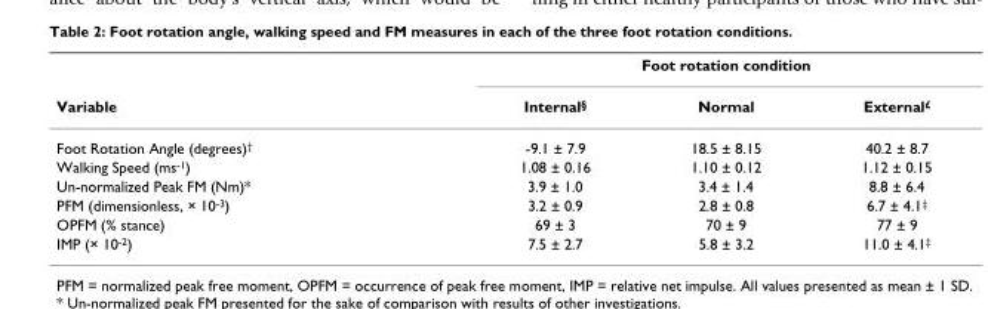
<table><thead><tr><td rowspan="2">Variable</td><td colspan="3">Foot rotation condition</td></tr><tr><td>Internal<sup>§</sup></td><td>Normal</td><td>External<sup>£</sup></td></tr></thead><tbody><tr><td>Foot Rotation Angle (degrees)<sup>†</sup></td><td>-9.1 ± 7.9</td><td>18.5 ± 8.15</td><td>40.2 ± 8.7</td></tr><tr><td>Walking Speed (ms<sup>-1</sup>)</td><td>1.08 ± 0.16</td><td>1.10 ± 0.12</td><td>1.12 ± 0.15</td></tr><tr><td>Un-normalized Peak FM (Nm)*</td><td>3.9 ± 1.0</td><td>3.4 ± 1.4</td><td>8.8 ± 6.4</td></tr><tr><td>PFM (dimensionless, × 10<sup>-3</sup>)</td><td>3.2 ± 0.9</td><td>2.8 ± 0.8</td><td>6.7 ± 4.1<sup>‡</sup></td></tr><tr><td>OPFM (% stance)</td><td>69 ± 3</td><td>70 ± 9</td><td>77 ± 9</td></tr><tr><td>IMP (× 10<sup>-2</sup>)</td><td>7.5 ± 2.7</td><td>5.8 ± 3.2</td><td>11.0 ± 4.1<sup>‡</sup></td></tr></tbody></table>